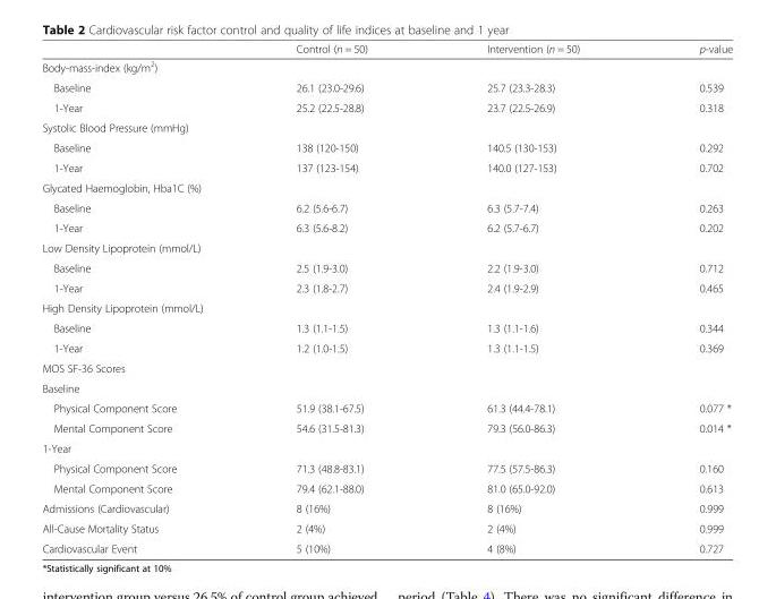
<table><thead><tr><td></td><td>Control (n = 50)</td><td>Intervention (n = 50)</td><td>p-value</td></tr></thead><tbody><tr><td colspan="4">Body-mass-index (kg/m<sup>2</sup>)</td></tr><tr><td>Baseline</td><td>26.1 (23.0-29.6)</td><td>25.7 (23.3-28.3)</td><td>0.539</td></tr><tr><td>1-Year</td><td>25.2 (22.5-28.8)</td><td>23.7 (22.5-26.9)</td><td>0.318</td></tr><tr><td colspan="4">Systolic Blood Pressure (mmHg)</td></tr><tr><td>Baseline</td><td>138 (120-150)</td><td>140.5 (130-153)</td><td>0.292</td></tr><tr><td>1-Year</td><td>137 (123-154)</td><td>140.0 (127-153)</td><td>0.702</td></tr><tr><td colspan="4">Glycated Haemoglobin, Hba1C (%)</td></tr><tr><td>Baseline</td><td>6.2 (5.6-6.7)</td><td>6.3 (5.7-7.4)</td><td>0.263</td></tr><tr><td>1-Year</td><td>6.3 (5.6-8.2)</td><td>6.2 (5.7-6.7)</td><td>0.202</td></tr><tr><td colspan="4">Low Density Lipoprotein (mmol/L)</td></tr><tr><td>Baseline</td><td>2.5 (1.9-3.0)</td><td>2.2 (1.9-3.0)</td><td>0.712</td></tr><tr><td>1-Year</td><td>2.3 (1.8-2.7)</td><td>2.4 (1.9-2.9)</td><td>0.465</td></tr><tr><td colspan="4">High Density Lipoprotein (mmol/L)</td></tr><tr><td>Baseline</td><td>1.3 (1.1-1.5)</td><td>1.3 (1.1-1.6)</td><td>0.344</td></tr><tr><td>1-Year</td><td>1.2 (1.0-1.5)</td><td>1.3 (1.1-1.5)</td><td>0.369</td></tr><tr><td colspan="4">MOS SF-36 Scores</td></tr><tr><td colspan="4">Baseline</td></tr><tr><td>Physical Component Score</td><td>51.9 (38.1-67.5)</td><td>61.3 (44.4-78.1)</td><td>0.077 *</td></tr><tr><td>Mental Component Score</td><td>54.6 (31.5-81.3)</td><td>79.3 (56.0-86.3)</td><td>0.014 *</td></tr><tr><td colspan="4">1-Year</td></tr><tr><td>Physical Component Score</td><td>71.3 (48.8-83.1)</td><td>77.5 (57.5-86.3)</td><td>0.160</td></tr><tr><td>Mental Component Score</td><td>79.4 (62.1-88.0)</td><td>81.0 (65.0-92.0)</td><td>0.613</td></tr><tr><td>Admissions (Cardiovascular)</td><td>8 (16%)</td><td>8 (16%)</td><td>0.999</td></tr><tr><td>All-Cause Mortality Status</td><td>2 (4%)</td><td>2 (4%)</td><td>0.999</td></tr><tr><td>Cardiovascular Event</td><td>5 (10%)</td><td>4 (8%)</td><td>0.727</td></tr></tbody></table>